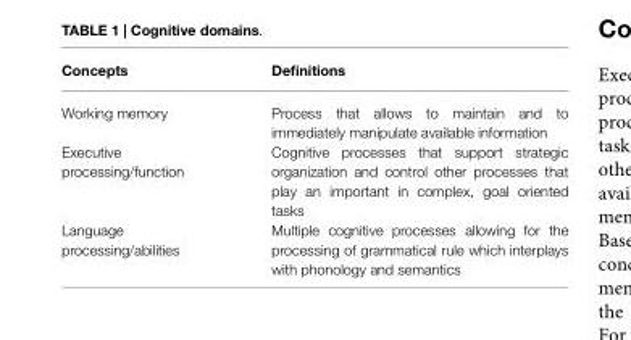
<table><thead><tr><td>Concepts</td><td>Definitions</td></tr></thead><tbody><tr><td>Working memory</td><td>Process that allows to maintain and to immediately manipulate available information</td></tr><tr><td>Executive processing/function</td><td>Cognitive processes that support strategic organization and control other processes that play an important in complex, goal oriented tasks</td></tr><tr><td>Language processing/abilities</td><td>Multiple cognitive processes allowing for the processing of grammatical rule which interplays with phonology and semantics</td></tr></tbody></table>